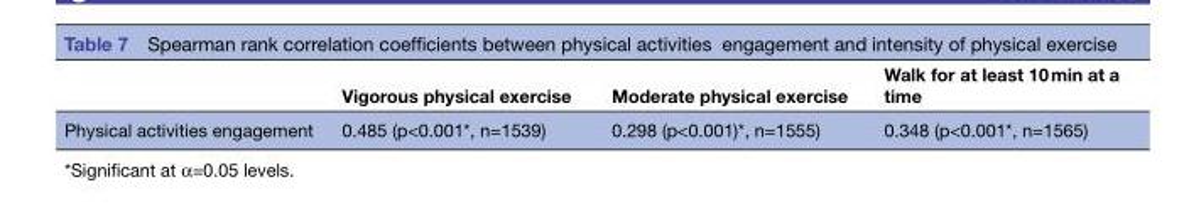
<table><thead><tr><td></td><td>Vigorous physical exercise</td><td>Moderate physical exercise</td><td>Walk for at least 10 min at a time</td></tr></thead><tbody><tr><td>Physical activities engagement</td><td>0.485 (p&lt;0.001*, n=1539)</td><td>0.298 (p&lt;0.001)*, n=1555)</td><td>0.348 (p&lt;0.001*, n=1565)</td></tr></tbody></table>